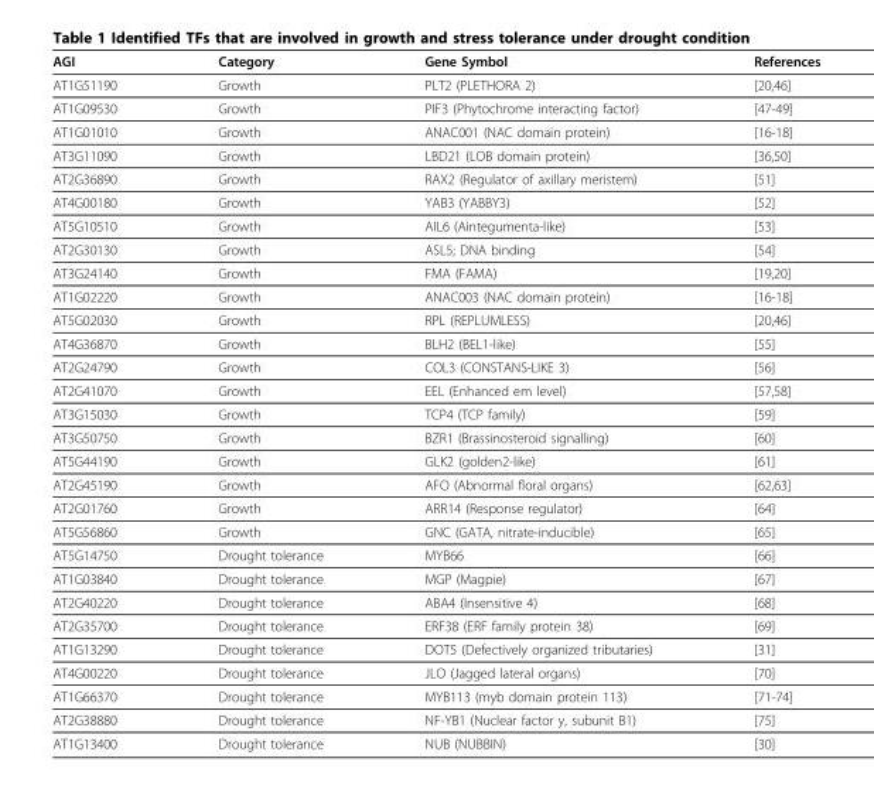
<table><thead><tr><td>AGI</td><td>Category</td><td>Gene Symbol</td><td>References</td></tr></thead><tbody><tr><td>AT1G51190</td><td>Growth</td><td>PLT2 (PLETHORA 2)</td><td>[20,46]</td></tr><tr><td>AT1G09530</td><td>Growth</td><td>PIF3 (Phytochrome interacting factor)</td><td>[47-49]</td></tr><tr><td>AT1G01010</td><td>Growth</td><td>ANAC001 (NAC domain protein)</td><td>[16-18]</td></tr><tr><td>AT3G11090</td><td>Growth</td><td>LBD21 (LOB domain protein)</td><td>[36,50]</td></tr><tr><td>AT2G36890</td><td>Growth</td><td>RAX2 (Regulator of axillary meristem)</td><td>[51]</td></tr><tr><td>AT4G00180</td><td>Growth</td><td>YAB3 (YABBY3)</td><td>[52]</td></tr><tr><td>AT5G10510</td><td>Growth</td><td>AIL6 (Aintegumenta-like)</td><td>[53]</td></tr><tr><td>AT2G30130</td><td>Growth</td><td>ASL5; DNA binding</td><td>[54]</td></tr><tr><td>AT3G24140</td><td>Growth</td><td>FMA (FAMA)</td><td>[19,20]</td></tr><tr><td>AT1G02220</td><td>Growth</td><td>ANAC003 (NAC domain protein)</td><td>[16-18]</td></tr><tr><td>AT5G02030</td><td>Growth</td><td>RPL (REPLUMLESS)</td><td>[20,46]</td></tr><tr><td>AT4G36870</td><td>Growth</td><td>BLH2 (BEL1-like)</td><td>[55]</td></tr><tr><td>AT2G24790</td><td>Growth</td><td>COL3 (CONSTANS-LIKE 3)</td><td>[56]</td></tr><tr><td>AT2G41070</td><td>Growth</td><td>EEL (Enhanced em level)</td><td>[57,58]</td></tr><tr><td>AT3G15030</td><td>Growth</td><td>TCP4 (TCP family)</td><td>[59]</td></tr><tr><td>AT3G50750</td><td>Growth</td><td>BZR1 (Brassinosteroid signalling)</td><td>[60]</td></tr><tr><td>AT5G44190</td><td>Growth</td><td>GLK2 (golden2-like)</td><td>[61]</td></tr><tr><td>AT2G45190</td><td>Growth</td><td>AFO (Abnormal floral organs)</td><td>[62,63]</td></tr><tr><td>AT2G01760</td><td>Growth</td><td>ARR14 (Response regulator)</td><td>[64]</td></tr><tr><td>AT5G56860</td><td>Growth</td><td>GNC (GATA, nitrate-inducible)</td><td>[65]</td></tr><tr><td>AT5G14750</td><td>Drought tolerance</td><td>MYB66</td><td>[66]</td></tr><tr><td>AT1G03840</td><td>Drought tolerance</td><td>MGP (Magpie)</td><td>[67]</td></tr><tr><td>AT2G40220</td><td>Drought tolerance</td><td>ABA4 (Insensitive 4)</td><td>[68]</td></tr><tr><td>AT2G35700</td><td>Drought tolerance</td><td>ERF38 (ERF family protein 38)</td><td>[69]</td></tr><tr><td>AT1G13290</td><td>Drought tolerance</td><td>DOT5 (Defectively organized tributaries)</td><td>[31]</td></tr><tr><td>AT4G00220</td><td>Drought tolerance</td><td>JLO (Jagged lateral organs)</td><td>[70]</td></tr><tr><td>AT1G66370</td><td>Drought tolerance</td><td>MYB113 (myb domain protein 113)</td><td>[71-74]</td></tr><tr><td>AT2G38880</td><td>Drought tolerance</td><td>NF-YB1 (Nuclear factor y, subunit B1)</td><td>[75]</td></tr><tr><td>AT1G13400</td><td>Drought tolerance</td><td>NUB (NUBBIN)</td><td>[30]</td></tr></tbody></table>